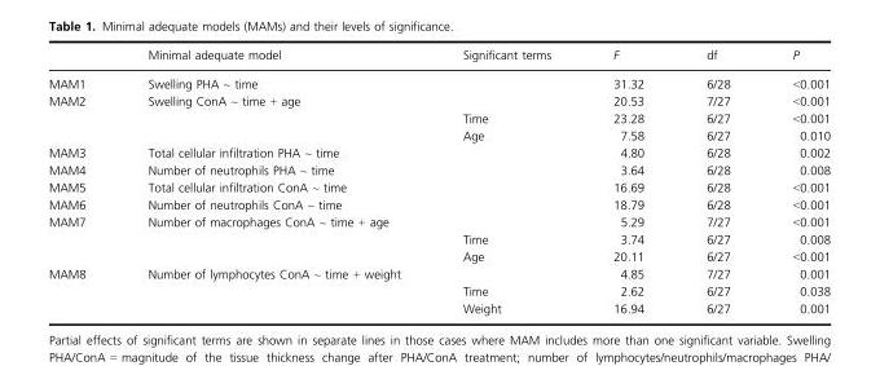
<table><thead><tr><td></td><td>Minimal adequate model</td><td>Significant terms</td><td>F</td><td>df</td><td>P</td></tr></thead><tbody><tr><td>MAM1</td><td>Swelling PHA ~ time</td><td></td><td>31.32</td><td>6/28</td><td>&lt;0.001</td></tr><tr><td rowspan="3">MAM2</td><td rowspan="3">Swelling ConA ~ time + age</td><td></td><td>20.53</td><td>7/27</td><td>&lt;0.001</td></tr><tr><td>Time</td><td>23.28</td><td>6/27</td><td>&lt;0.001</td></tr><tr><td>Age</td><td>7.58</td><td>6/27</td><td>0.010</td></tr><tr><td>MAM3</td><td>Total cellular infiltration PHA ~ time</td><td></td><td>4.80</td><td>6/28</td><td>0.002</td></tr><tr><td>MAM4</td><td>Number of neutrophils PHA ~ time</td><td></td><td>3.64</td><td>6/28</td><td>0.008</td></tr><tr><td>MAM5</td><td>Total cellular infiltration ConA ~ time</td><td></td><td>16.69</td><td>6/28</td><td>&lt;0.001</td></tr><tr><td>MAM6</td><td>Number of neutrophils ConA ~ time</td><td></td><td>18.79</td><td>6/28</td><td>&lt;0.001</td></tr><tr><td rowspan="3">MAM7</td><td rowspan="3">Number of macrophages ConA ~ time + age</td><td></td><td>5.29</td><td>7/27</td><td>&lt;0.001</td></tr><tr><td>Time</td><td>3.74</td><td>6/27</td><td>0.008</td></tr><tr><td>Age</td><td>20.11</td><td>6/27</td><td>&lt;0.001</td></tr><tr><td rowspan="3">MAM8</td><td rowspan="3">Number of lymphocytes ConA ~ time + weight</td><td></td><td>4.85</td><td>7/27</td><td>0.001</td></tr><tr><td>Time</td><td>2.62</td><td>6/27</td><td>0.038</td></tr><tr><td>Weight</td><td>16.94</td><td>6/27</td><td>0.001</td></tr></tbody></table>